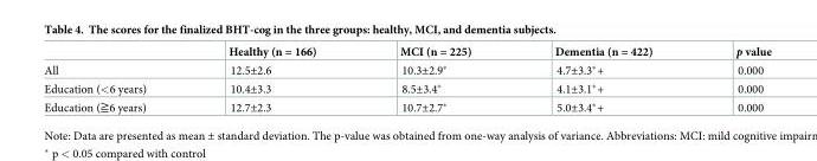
<table><thead><tr><td></td><td>Healthy (n = 166)</td><td>MCI (n = 225)</td><td>Dementia (n = 422)</td><td>p value</td></tr></thead><tbody><tr><td>All</td><td>12.5±2.6</td><td>10.3±2.9*</td><td>4.7±3.3*+</td><td>0.000</td></tr><tr><td>Education (&lt;6 years)</td><td>10.4±3.3</td><td>8.5±3.4*</td><td>4.1±3.1*+</td><td>0.000</td></tr><tr><td>Education (≧6 years)</td><td>12.7±2.3</td><td>10.7±2.7*</td><td>5.0±3.4*+</td><td>0.000</td></tr></tbody></table>